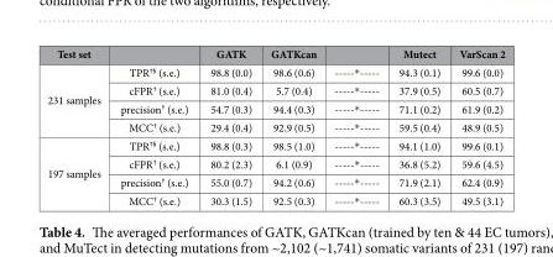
<table><thead><tr><td>Test set</td><td></td><td>GATK</td><td>GATKcan</td><td></td><td>Mutect</td><td>VarScan 2</td></tr></thead><tbody><tr><td rowspan="4">231 samples</td><td>TPR<sup>†§</sup> (s.e.)</td><td>98.8 (0.0)</td><td>98.6 (0.6)</td><td>-----*-----</td><td>94.3 (0.1)</td><td>99.6 (0.0)</td></tr><tr><td>cFPR<sup>†</sup> (s.e.)</td><td>81.0 (0.4)</td><td>5.7 (0.4)</td><td>-----*-----</td><td>37.9 (0.5)</td><td>60.5 (0.7)</td></tr><tr><td>precision<sup>†</sup> (s.e.)</td><td>54.7 (0.3)</td><td>94.4 (0.3)</td><td>-----*-----</td><td>71.1 (0.2)</td><td>61.9 (0.2)</td></tr><tr><td>MCC<sup>†</sup> (s.e.)</td><td>29.4 (0.4)</td><td>92.9 (0.5)</td><td>-----*-----</td><td>59.5 (0.4)</td><td>48.9 (0.5)</td></tr><tr><td rowspan="4">197 samples</td><td>TPR<sup>†§</sup> (s.e.)</td><td>98.8 (0.3)</td><td>98.5 (1.0)</td><td>-----*-----</td><td>94.1 (1.0)</td><td>99.6 (0.1)</td></tr><tr><td>cFPR<sup>†</sup> (s.e.)</td><td>80.2 (2.3)</td><td>6.1 (0.9)</td><td>-----*-----</td><td>36.8 (5.2)</td><td>59.6 (4.5)</td></tr><tr><td>precision<sup>†</sup> (s.e.)</td><td>55.0 (0.7)</td><td>94.2 (0.6)</td><td>-----*-----</td><td>71.9 (2.1)</td><td>62.4 (0.9)</td></tr><tr><td>MCC<sup>†</sup> (s.e.)</td><td>30.3 (1.5)</td><td>92.5 (0.3)</td><td>-----*-----</td><td>60.3 (3.5)</td><td>49.5 (3.1)</td></tr></tbody></table>